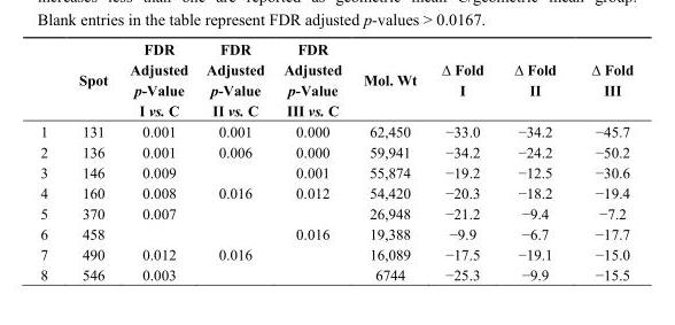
<table><thead><tr><td></td><td>Spot</td><td>FDR Adjusted p-Value I vs. C</td><td>FDR Adjusted p-Value II vs. C</td><td>FDR Adjusted p-Value III vs. C</td><td>Mol. Wt</td><td>∆ Fold I</td><td>∆ Fold II</td><td>∆ Fold III</td></tr></thead><tbody><tr><td>1</td><td>131</td><td>0.001</td><td>0.001</td><td>0.000</td><td>62,450</td><td>−33.0</td><td>−34.2</td><td>−45.7</td></tr><tr><td>2</td><td>136</td><td>0.001</td><td>0.006</td><td>0.000</td><td>59,941</td><td>−34.2</td><td>−24.2</td><td>−50.2</td></tr><tr><td>3</td><td>146</td><td>0.009</td><td></td><td>0.001</td><td>55,874</td><td>−19.2</td><td>−12.5</td><td>−30.6</td></tr><tr><td>4</td><td>160</td><td>0.008</td><td>0.016</td><td>0.012</td><td>54,420</td><td>−20.3</td><td>−18.2</td><td>−19.4</td></tr><tr><td>5</td><td>370</td><td>0.007</td><td></td><td></td><td>26,948</td><td>−21.2</td><td>−9.4</td><td>−7.2</td></tr><tr><td>6</td><td>458</td><td></td><td></td><td>0.016</td><td>19,388</td><td>−9.9</td><td>−6.7</td><td>−17.7</td></tr><tr><td>7</td><td>490</td><td>0.012</td><td>0.016</td><td></td><td>16,089</td><td>−17.5</td><td>−19.1</td><td>−15.0</td></tr><tr><td>8</td><td>546</td><td>0.003</td><td></td><td></td><td>6744</td><td>−25.3</td><td>−9.9</td><td>−15.5</td></tr></tbody></table>